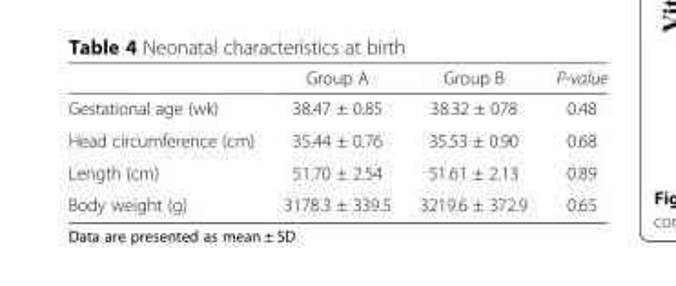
<table><thead><tr><td></td><td>Group A</td><td>Group B</td><td>P-value</td></tr></thead><tbody><tr><td>Gestational age (wk)</td><td>38.47 ± 0.85</td><td>38.32 ± 078</td><td>0.48</td></tr><tr><td>Head circumference (cm)</td><td>35.44 ± 0.76</td><td>35.53 ± 0.90</td><td>0.68</td></tr><tr><td>Length (cm)</td><td>51.70 ± 2.54</td><td>51.61 ± 2.13</td><td>0.89</td></tr><tr><td>Body weight (g)</td><td>3178.3 ± 339.5</td><td>3219.6 ± 372.9</td><td>0.65</td></tr></tbody></table>